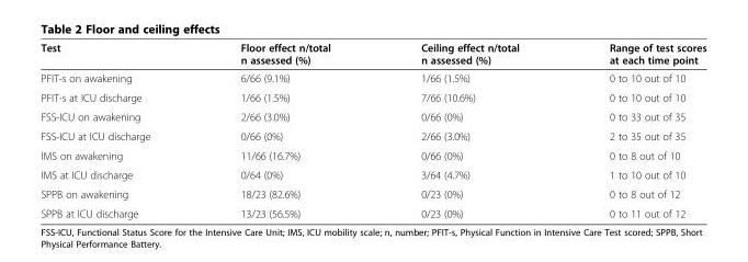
<table><thead><tr><td>Test</td><td>Floor effect n/total n assessed (%)</td><td>Ceiling effect n/total n assessed (%)</td><td>Range of test scores at each time point</td></tr></thead><tbody><tr><td>PFIT-s on awakening</td><td>6/66 (9.1%)</td><td>1/66 (1.5%)</td><td>0 to 10 out of 10</td></tr><tr><td>PFIT-s at ICU discharge</td><td>1/66 (1.5%)</td><td>7/66 (10.6%)</td><td>0 to 10 out of 10</td></tr><tr><td>FSS-ICU on awakening</td><td>2/66 (3.0%)</td><td>0/66 (0%)</td><td>0 to 33 out of 35</td></tr><tr><td>FSS-ICU at ICU discharge</td><td>0/66 (0%)</td><td>2/66 (3.0%)</td><td>2 to 35 out of 35</td></tr><tr><td>IMS on awakening</td><td>11/66 (16.7%)</td><td>0/66 (0%)</td><td>0 to 8 out of 10</td></tr><tr><td>IMS at ICU discharge</td><td>0/64 (0%)</td><td>3/64 (4.7%)</td><td>1 to 10 out of 10</td></tr><tr><td>SPPB on awakening</td><td>18/23 (82.6%)</td><td>0/23 (0%)</td><td>0 to 8 out of 12</td></tr><tr><td>SPPB at ICU discharge</td><td>13/23 (56.5%)</td><td>0/23 (0%)</td><td>0 to 11 out of 12</td></tr></tbody></table>